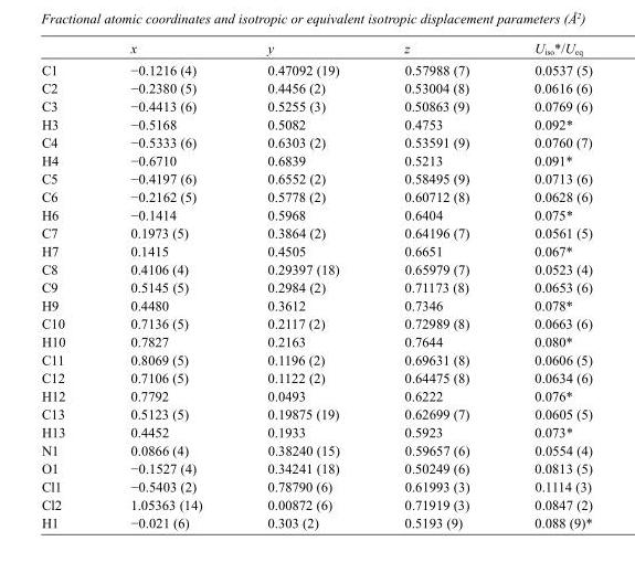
<table><thead><tr><td></td><td>x</td><td>y</td><td>z</td><td>U<sub>iso</sub>*/U<sub>eq</sub></td></tr></thead><tbody><tr><td>C1</td><td>−0.1216 (4)</td><td>0.47092 (19)</td><td>0.57988 (7)</td><td>0.0537 (5)</td></tr><tr><td>C2</td><td>−0.2380 (5)</td><td>0.4456 (2)</td><td>0.53004 (8)</td><td>0.0616 (6)</td></tr><tr><td>C3</td><td>−0.4413 (6)</td><td>0.5255 (3)</td><td>0.50863 (9)</td><td>0.0769 (6)</td></tr><tr><td>H3</td><td>−0.5168</td><td>0.5082</td><td>0.4753</td><td>0.092*</td></tr><tr><td>C4</td><td>−0.5333 (6)</td><td>0.6303 (2)</td><td>0.53591 (9)</td><td>0.0760 (7)</td></tr><tr><td>H4</td><td>−0.6710</td><td>0.6839</td><td>0.5213</td><td>0.091*</td></tr><tr><td>C5</td><td>−0.4197 (6)</td><td>0.6552 (2)</td><td>0.58495 (9)</td><td>0.0713 (6)</td></tr><tr><td>C6</td><td>−0.2162 (5)</td><td>0.5778 (2)</td><td>0.60712 (8)</td><td>0.0628 (6)</td></tr><tr><td>H6</td><td>−0.1414</td><td>0.5968</td><td>0.6404</td><td>0.075*</td></tr><tr><td>C7</td><td>0.1973 (5)</td><td>0.3864 (2)</td><td>0.64196 (7)</td><td>0.0561 (5)</td></tr><tr><td>H7</td><td>0.1415</td><td>0.4505</td><td>0.6651</td><td>0.067*</td></tr><tr><td>C8</td><td>0.4106 (4)</td><td>0.29397 (18)</td><td>0.65979 (7)</td><td>0.0523 (4)</td></tr><tr><td>C9</td><td>0.5145 (5)</td><td>0.2984 (2)</td><td>0.71173 (8)</td><td>0.0653 (6)</td></tr><tr><td>H9</td><td>0.4480</td><td>0.3612</td><td>0.7346</td><td>0.078*</td></tr><tr><td>C10</td><td>0.7136 (5)</td><td>0.2117 (2)</td><td>0.72989 (8)</td><td>0.0663 (6)</td></tr><tr><td>H10</td><td>0.7827</td><td>0.2163</td><td>0.7644</td><td>0.080*</td></tr><tr><td>C11</td><td>0.8069 (5)</td><td>0.1196 (2)</td><td>0.69631 (8)</td><td>0.0606 (5)</td></tr><tr><td>C12</td><td>0.7106 (5)</td><td>0.1122 (2)</td><td>0.64475 (8)</td><td>0.0634 (6)</td></tr><tr><td>H12</td><td>0.7792</td><td>0.0493</td><td>0.6222</td><td>0.076*</td></tr><tr><td>C13</td><td>0.5123 (5)</td><td>0.19875 (19)</td><td>0.62699 (7)</td><td>0.0605 (5)</td></tr><tr><td>H13</td><td>0.4452</td><td>0.1933</td><td>0.5923</td><td>0.073*</td></tr><tr><td>N1</td><td>0.0866 (4)</td><td>0.38240 (15)</td><td>0.59657 (6)</td><td>0.0554 (4)</td></tr><tr><td>O1</td><td>−0.1527 (4)</td><td>0.34241 (18)</td><td>0.50249 (6)</td><td>0.0813 (5)</td></tr><tr><td>Cl1</td><td>−0.5403 (2)</td><td>0.78790 (6)</td><td>0.61993 (3)</td><td>0.1114 (3)</td></tr><tr><td>Cl2</td><td>1.05363 (14)</td><td>0.00872 (6)</td><td>0.71919 (3)</td><td>0.0847 (2)</td></tr><tr><td>H1</td><td>−0.021 (6)</td><td>0.303 (2)</td><td>0.5193 (9)</td><td>0.088 (9)*</td></tr></tbody></table>